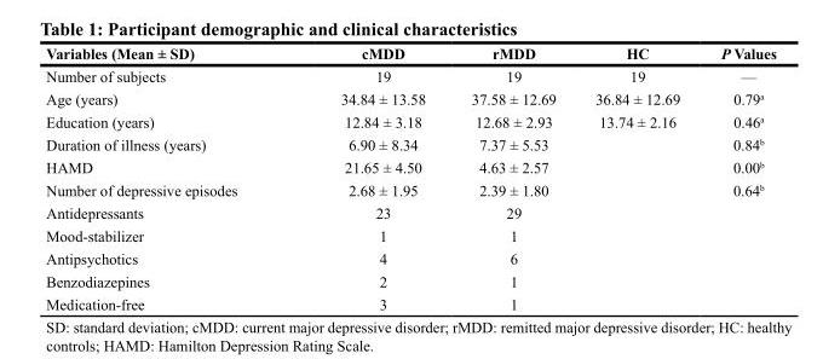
<table><thead><tr><td>Variables (Mean ± SD)</td><td>cMDD</td><td>rMDD</td><td>HC</td><td>P Values</td></tr></thead><tbody><tr><td>Number of subjects</td><td>19</td><td>19</td><td>19</td><td>—</td></tr><tr><td>Age (years)</td><td>34.84 ± 13.58</td><td>37.58 ± 12.69</td><td>36.84 ± 12.69</td><td>0.79<sup>a</sup></td></tr><tr><td>Education (years)</td><td>12.84 ± 3.18</td><td>12.68 ± 2.93</td><td>13.74 ± 2.16</td><td>0.46<sup>a</sup></td></tr><tr><td>Duration of illness (years)</td><td>6.90 ± 8.34</td><td>7.37 ± 5.53</td><td></td><td>0.84<sup>b</sup></td></tr><tr><td>HAMD</td><td>21.65 ± 4.50</td><td>4.63 ± 2.57</td><td></td><td>0.00<sup>b</sup></td></tr><tr><td>Number of depressive episodes</td><td>2.68 ± 1.95</td><td>2.39 ± 1.80</td><td></td><td>0.64<sup>b</sup></td></tr><tr><td>Antidepressants</td><td>23</td><td>29</td><td></td><td></td></tr><tr><td>Mood-stabilizer</td><td>1</td><td>1</td><td></td><td></td></tr><tr><td>Antipsychotics</td><td>4</td><td>6</td><td></td><td></td></tr><tr><td>Benzodiazepines</td><td>2</td><td>1</td><td></td><td></td></tr><tr><td>Medication-free</td><td>3</td><td>1</td><td></td><td></td></tr></tbody></table>